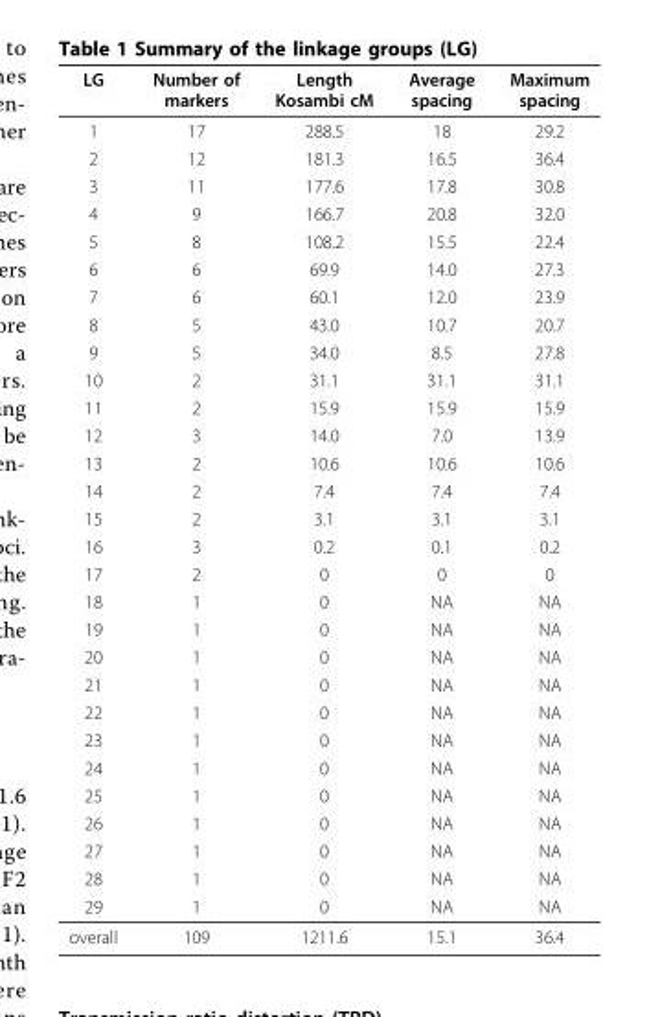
<table><thead><tr><td>LG</td><td>Number of markers</td><td>Length Kosambi cM</td><td>Average spacing</td><td>Maximum spacing</td></tr></thead><tbody><tr><td>1</td><td>17</td><td>288.5</td><td>18</td><td>29.2</td></tr><tr><td>2</td><td>12</td><td>181.3</td><td>16.5</td><td>36.4</td></tr><tr><td>3</td><td>11</td><td>177.6</td><td>17.8</td><td>30.8</td></tr><tr><td>4</td><td>9</td><td>166.7</td><td>20.8</td><td>32.0</td></tr><tr><td>5</td><td>8</td><td>108.2</td><td>15.5</td><td>22.4</td></tr><tr><td>6</td><td>6</td><td>69.9</td><td>14.0</td><td>27.3</td></tr><tr><td>7</td><td>6</td><td>60.1</td><td>12.0</td><td>23.9</td></tr><tr><td>8</td><td>5</td><td>43.0</td><td>10.7</td><td>20.7</td></tr><tr><td>9</td><td>5</td><td>34.0</td><td>8.5</td><td>27.8</td></tr><tr><td>10</td><td>2</td><td>31.1</td><td>31.1</td><td>31.1</td></tr><tr><td>11</td><td>2</td><td>15.9</td><td>15.9</td><td>15.9</td></tr><tr><td>12</td><td>3</td><td>14.0</td><td>7.0</td><td>13.9</td></tr><tr><td>13</td><td>2</td><td>10.6</td><td>10.6</td><td>10.6</td></tr><tr><td>14</td><td>2</td><td>7.4</td><td>7.4</td><td>7.4</td></tr><tr><td>15</td><td>2</td><td>3.1</td><td>3.1</td><td>3.1</td></tr><tr><td>16</td><td>3</td><td>0.2</td><td>0.1</td><td>0.2</td></tr><tr><td>17</td><td>2</td><td>0</td><td>0</td><td>0</td></tr><tr><td>18</td><td>1</td><td>0</td><td>NA</td><td>NA</td></tr><tr><td>19</td><td>1</td><td>0</td><td>NA</td><td>NA</td></tr><tr><td>20</td><td>1</td><td>0</td><td>NA</td><td>NA</td></tr><tr><td>21</td><td>1</td><td>0</td><td>NA</td><td>NA</td></tr><tr><td>22</td><td>1</td><td>0</td><td>NA</td><td>NA</td></tr><tr><td>23</td><td>1</td><td>0</td><td>NA</td><td>NA</td></tr><tr><td>24</td><td>1</td><td>0</td><td>NA</td><td>NA</td></tr><tr><td>25</td><td>1</td><td>0</td><td>NA</td><td>NA</td></tr><tr><td>26</td><td>1</td><td>0</td><td>NA</td><td>NA</td></tr><tr><td>27</td><td>1</td><td>0</td><td>NA</td><td>NA</td></tr><tr><td>28</td><td>1</td><td>0</td><td>NA</td><td>NA</td></tr><tr><td>29</td><td>1</td><td>0</td><td>NA</td><td>NA</td></tr><tr><td>overall</td><td>109</td><td>1211.6</td><td>15.1</td><td>36.4</td></tr></tbody></table>